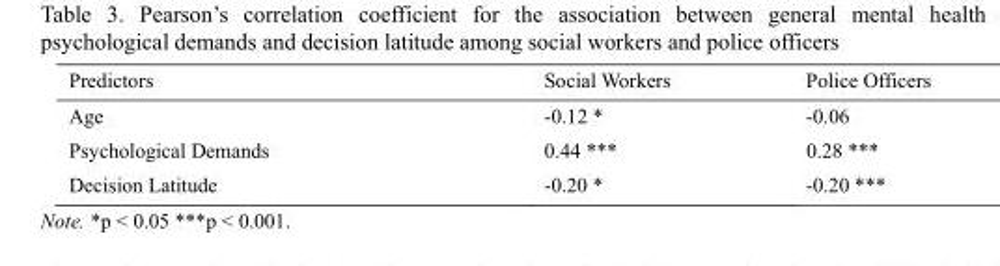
<table><thead><tr><td>Predictors</td><td>Social Workers</td><td>Police Officers</td></tr></thead><tbody><tr><td>Age</td><td>-0.12 *</td><td>-0.06</td></tr><tr><td>Psychological Demands</td><td>0.44 ***</td><td>0.28 ***</td></tr><tr><td>Decision Latitude</td><td>-0.20 *</td><td>-0.20 ***</td></tr></tbody></table>